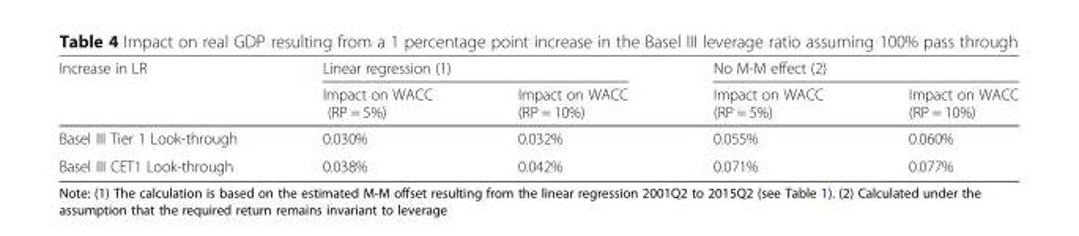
<table><thead><tr><td rowspan="2">Increase in LR</td><td colspan="2">Linear regression (1)</td><td colspan="2">No M-M effect (2)</td></tr><tr><td>Impact on WACC (RP = 5%)</td><td>Impact on WACC (RP = 10%)</td><td>Impact on WACC (RP = 5%)</td><td>Impact on WACC (RP = 10%)</td></tr></thead><tbody><tr><td>Basel III Tier 1 Look-through</td><td>0.030%</td><td>0.032%</td><td>0.055%</td><td>0.060%</td></tr><tr><td>Basel III CET1 Look-through</td><td>0.038%</td><td>0.042%</td><td>0.071%</td><td>0.077%</td></tr></tbody></table>